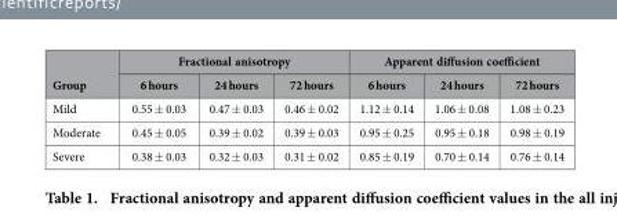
<table><thead><tr><td rowspan="2">Group</td><td colspan="3">Fractional anisotropy</td><td colspan="3">Apparent diffusion coefficient</td></tr><tr><td>6 hours</td><td>24 hours</td><td>72 hours</td><td>6 hours</td><td>24 hours</td><td>72 hours</td></tr></thead><tbody><tr><td>Mild</td><td>0.55 ± 0.03</td><td>0.47 ± 0.03</td><td>0.46 ± 0.02</td><td>1.12 ± 0.14</td><td>1.06 ± 0.08</td><td>1.08 ± 0.23</td></tr><tr><td>Moderate</td><td>0.45 ± 0.05</td><td>0.39 ± 0.02</td><td>0.39 ± 0.03</td><td>0.95 ± 0.25</td><td>0.95 ± 0.18</td><td>0.98 ± 0.19</td></tr><tr><td>Severe</td><td>0.38 ± 0.03</td><td>0.32 ± 0.03</td><td>0.31 ± 0.02</td><td>0.85 ± 0.19</td><td>0.70 ± 0.14</td><td>0.76 ± 0.14</td></tr></tbody></table>